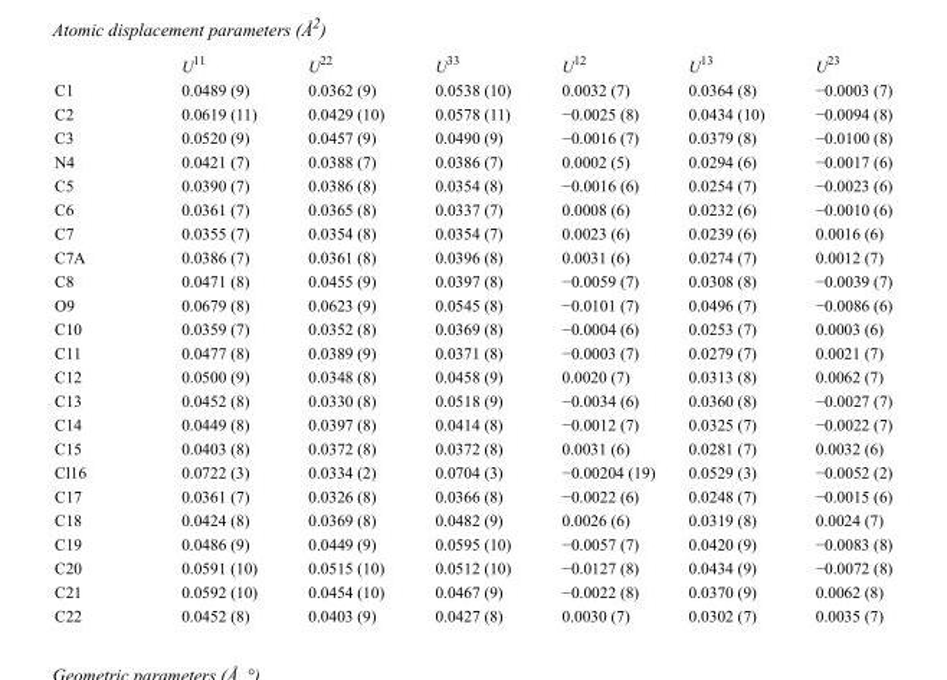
<table><thead><tr><td></td><td>U<sup>11</sup></td><td>U<sup>22</sup></td><td>U<sup>33</sup></td><td>U<sup>12</sup></td><td>U<sup>13</sup></td><td>U<sup>23</sup></td></tr></thead><tbody><tr><td>C1</td><td>0.0489 (9)</td><td>0.0362 (9)</td><td>0.0538 (10)</td><td>0.0032 (7)</td><td>0.0364 (8)</td><td>−0.0003 (7)</td></tr><tr><td>C2</td><td>0.0619 (11)</td><td>0.0429 (10)</td><td>0.0578 (11)</td><td>−0.0025 (8)</td><td>0.0434 (10)</td><td>−0.0094 (8)</td></tr><tr><td>C3</td><td>0.0520 (9)</td><td>0.0457 (9)</td><td>0.0490 (9)</td><td>−0.0016 (7)</td><td>0.0379 (8)</td><td>−0.0100 (8)</td></tr><tr><td>N4</td><td>0.0421 (7)</td><td>0.0388 (7)</td><td>0.0386 (7)</td><td>0.0002 (5)</td><td>0.0294 (6)</td><td>−0.0017 (6)</td></tr><tr><td>C5</td><td>0.0390 (7)</td><td>0.0386 (8)</td><td>0.0354 (8)</td><td>−0.0016 (6)</td><td>0.0254 (7)</td><td>−0.0023 (6)</td></tr><tr><td>C6</td><td>0.0361 (7)</td><td>0.0365 (8)</td><td>0.0337 (7)</td><td>0.0008 (6)</td><td>0.0232 (6)</td><td>−0.0010 (6)</td></tr><tr><td>C7</td><td>0.0355 (7)</td><td>0.0354 (8)</td><td>0.0354 (7)</td><td>0.0023 (6)</td><td>0.0239 (6)</td><td>0.0016 (6)</td></tr><tr><td>C7A</td><td>0.0386 (7)</td><td>0.0361 (8)</td><td>0.0396 (8)</td><td>0.0031 (6)</td><td>0.0274 (7)</td><td>0.0012 (7)</td></tr><tr><td>C8</td><td>0.0471 (8)</td><td>0.0455 (9)</td><td>0.0397 (8)</td><td>−0.0059 (7)</td><td>0.0308 (8)</td><td>−0.0039 (7)</td></tr><tr><td>O9</td><td>0.0679 (8)</td><td>0.0623 (9)</td><td>0.0545 (8)</td><td>−0.0101 (7)</td><td>0.0496 (7)</td><td>−0.0086 (6)</td></tr><tr><td>C10</td><td>0.0359 (7)</td><td>0.0352 (8)</td><td>0.0369 (8)</td><td>−0.0004 (6)</td><td>0.0253 (7)</td><td>0.0003 (6)</td></tr><tr><td>C11</td><td>0.0477 (8)</td><td>0.0389 (9)</td><td>0.0371 (8)</td><td>−0.0003 (7)</td><td>0.0279 (7)</td><td>0.0021 (7)</td></tr><tr><td>C12</td><td>0.0500 (9)</td><td>0.0348 (8)</td><td>0.0458 (9)</td><td>0.0020 (7)</td><td>0.0313 (8)</td><td>0.0062 (7)</td></tr><tr><td>C13</td><td>0.0452 (8)</td><td>0.0330 (8)</td><td>0.0518 (9)</td><td>−0.0034 (6)</td><td>0.0360 (8)</td><td>−0.0027 (7)</td></tr><tr><td>C14</td><td>0.0449 (8)</td><td>0.0397 (8)</td><td>0.0414 (8)</td><td>−0.0012 (7)</td><td>0.0325 (7)</td><td>−0.0022 (7)</td></tr><tr><td>C15</td><td>0.0403 (8)</td><td>0.0372 (8)</td><td>0.0372 (8)</td><td>0.0031 (6)</td><td>0.0281 (7)</td><td>0.0032 (6)</td></tr><tr><td>Cl16</td><td>0.0722 (3)</td><td>0.0334 (2)</td><td>0.0704 (3)</td><td>−0.00204 (19)</td><td>0.0529 (3)</td><td>−0.0052 (2)</td></tr><tr><td>C17</td><td>0.0361 (7)</td><td>0.0326 (8)</td><td>0.0366 (8)</td><td>−0.0022 (6)</td><td>0.0248 (7)</td><td>−0.0015 (6)</td></tr><tr><td>C18</td><td>0.0424 (8)</td><td>0.0369 (8)</td><td>0.0482 (9)</td><td>0.0026 (6)</td><td>0.0319 (8)</td><td>0.0024 (7)</td></tr><tr><td>C19</td><td>0.0486 (9)</td><td>0.0449 (9)</td><td>0.0595 (10)</td><td>−0.0057 (7)</td><td>0.0420 (9)</td><td>−0.0083 (8)</td></tr><tr><td>C20</td><td>0.0591 (10)</td><td>0.0515 (10)</td><td>0.0512 (10)</td><td>−0.0127 (8)</td><td>0.0434 (9)</td><td>−0.0072 (8)</td></tr><tr><td>C21</td><td>0.0592 (10)</td><td>0.0454 (10)</td><td>0.0467 (9)</td><td>−0.0022 (8)</td><td>0.0370 (9)</td><td>0.0062 (8)</td></tr><tr><td>C22</td><td>0.0452 (8)</td><td>0.0403 (9)</td><td>0.0427 (8)</td><td>0.0030 (7)</td><td>0.0302 (7)</td><td>0.0035 (7)</td></tr></tbody></table>